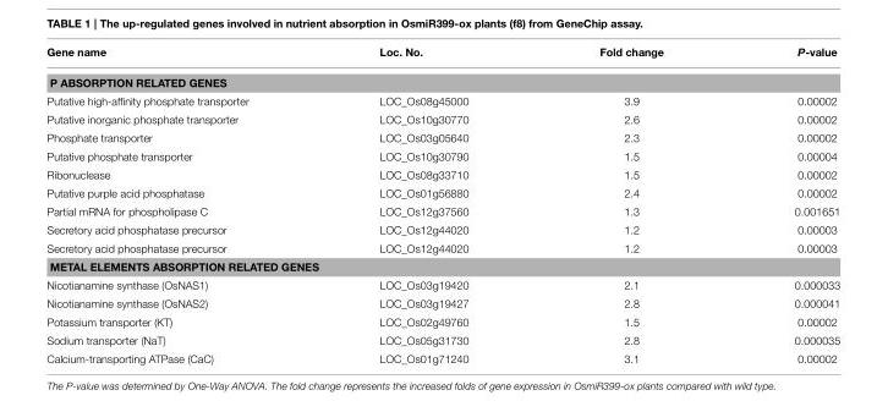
<table><thead><tr><td>Gene name</td><td>Loc. No.</td><td>Fold change</td><td>P-value</td></tr></thead><tbody><tr><td colspan="4">P ABSORPTION RELATED GENES</td></tr><tr><td>Putative high-affinity phosphate transporter</td><td>LOC_Os08g45000</td><td>3.9</td><td>0.00002</td></tr><tr><td>Putative inorganic phosphate transporter</td><td>LOC_Os10g30770</td><td>2.6</td><td>0.00002</td></tr><tr><td>Phosphate transporter</td><td>LOC_Os03g05640</td><td>2.3</td><td>0.00002</td></tr><tr><td>Putative phosphate transporter</td><td>LOC_Os10g30790</td><td>1.5</td><td>0.00004</td></tr><tr><td>Ribonuclease</td><td>LOC_Os08g33710</td><td>1.5</td><td>0.00002</td></tr><tr><td>Putative purple acid phosphatase</td><td>LOC_Os01g56880</td><td>2.4</td><td>0.00002</td></tr><tr><td>Partial mRNA for phospholipase C</td><td>LOC_Os12g37560</td><td>1.3</td><td>0.001651</td></tr><tr><td>Secretory acid phosphatase precursor</td><td>LOC_Os12g44020</td><td>1.2</td><td>0.00003</td></tr><tr><td>Secretory acid phosphatase precursor</td><td>LOC_Os12g44020</td><td>1.2</td><td>0.00003</td></tr><tr><td colspan="4">METAL ELEMENTS ABSORPTION RELATED GENES</td></tr><tr><td>Nicotianamine synthase (OsNAS1)</td><td>LOC_Os03g19420</td><td>2.1</td><td>0.000033</td></tr><tr><td>Nicotianamine synthase (OsNAS2)</td><td>LOC_Os03g19427</td><td>2.8</td><td>0.000041</td></tr><tr><td>Potassium transporter (KT)</td><td>LOC_Os02g49760</td><td>1.5</td><td>0.00002</td></tr><tr><td>Sodium transporter (NaT)</td><td>LOC_Os05g31730</td><td>2.8</td><td>0.000035</td></tr><tr><td>Calcium-transporting ATPase (CaC)</td><td>LOC_Os01g71240</td><td>3.1</td><td>0.00002</td></tr></tbody></table>